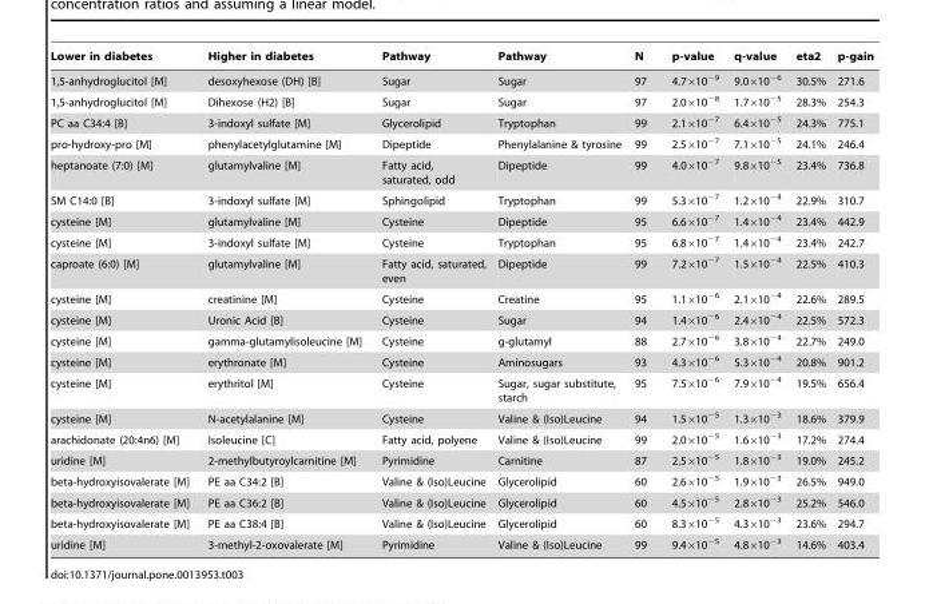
<table><thead><tr><td>Lower in diabetes</td><td>Higher in diabetes</td><td>Pathway</td><td>Pathway</td><td>N</td><td>p-value</td><td>q-value</td><td>eta2</td><td>p-gain</td></tr></thead><tbody><tr><td>1,5-anhydroglucitol [M]</td><td>desoxyhexose (DH) [B]</td><td>Sugar</td><td>Sugar</td><td>97</td><td>4.7×10<sup>−9</sup></td><td>9.0×10<sup>−6</sup></td><td>30.5%</td><td>271.6</td></tr><tr><td>1,5-anhydroglucitol [M]</td><td>Dihexose (H2) [B]</td><td>Sugar</td><td>Sugar</td><td>97</td><td>2.0×10<sup>−8</sup></td><td>1.7×10<sup>−5</sup></td><td>28.3%</td><td>254.3</td></tr><tr><td>PC aa C34:4 [B]</td><td>3-indoxyl sulfate [M]</td><td>Glycerolipid</td><td>Tryptophan</td><td>99</td><td>2.1×10<sup>−7</sup></td><td>6.4×10<sup>−5</sup></td><td>24.3%</td><td>775.1</td></tr><tr><td>pro-hydroxy-pro [M]</td><td>phenylacetylglutamine [M]</td><td>Dipeptide</td><td>Phenylalanine &amp; tyrosine</td><td>99</td><td>2.5×10<sup>−7</sup></td><td>7.1×10<sup>−5</sup></td><td>24.1%</td><td>246.4</td></tr><tr><td>heptanoate (7:0) [M]</td><td>glutamylvaline [M]</td><td>Fatty acid, saturated, odd</td><td>Dipeptide</td><td>99</td><td>4.0×10<sup>−7</sup></td><td>9.8×10<sup>−5</sup></td><td>23.4%</td><td>736.8</td></tr><tr><td>SM C14:0 [B]</td><td>3-indoxyl sulfate [M]</td><td>Sphingolipid</td><td>Tryptophan</td><td>99</td><td>5.3×10<sup>−7</sup></td><td>1.2×10<sup>−4</sup></td><td>22.9%</td><td>310.7</td></tr><tr><td>cysteine [M]</td><td>glutamylvaline [M]</td><td>Cysteine</td><td>Dipeptide</td><td>95</td><td>6.6×10<sup>−7</sup></td><td>1.4×10<sup>−4</sup></td><td>23.4%</td><td>442.9</td></tr><tr><td>cysteine [M]</td><td>3-indoxyl sulfate [M]</td><td>Cysteine</td><td>Tryptophan</td><td>95</td><td>6.8×10<sup>−7</sup></td><td>1.4×10<sup>−4</sup></td><td>23.4%</td><td>242.7</td></tr><tr><td>caproate (6:0) [M]</td><td>glutamylvaline [M]</td><td>Fatty acid, saturated, even</td><td>Dipeptide</td><td>99</td><td>7.2×10<sup>−7</sup></td><td>1.5×10<sup>−4</sup></td><td>22.5%</td><td>410.3</td></tr><tr><td>cysteine [M]</td><td>creatinine [M]</td><td>Cysteine</td><td>Creatine</td><td>95</td><td>1.1×10<sup>−6</sup></td><td>2.1×10<sup>−4</sup></td><td>22.6%</td><td>289.5</td></tr><tr><td>cysteine [M]</td><td>Uronic Acid [B]</td><td>Cysteine</td><td>Sugar</td><td>94</td><td>1.4×10<sup>−6</sup></td><td>2.4×10<sup>−4</sup></td><td>22.5%</td><td>572.3</td></tr><tr><td>cysteine [M]</td><td>gamma-glutamylisoleucine [M]</td><td>Cysteine</td><td>g-glutamyl</td><td>88</td><td>2.7×10<sup>−6</sup></td><td>3.8×10<sup>−4</sup></td><td>22.7%</td><td>249.0</td></tr><tr><td>cysteine [M]</td><td>erythronate [M]</td><td>Cysteine</td><td>Aminosugars</td><td>93</td><td>4.3×10<sup>−6</sup></td><td>5.3×10<sup>−4</sup></td><td>20.8%</td><td>901.2</td></tr><tr><td>cysteine [M]</td><td>erythritol [M]</td><td>Cysteine</td><td>Sugar, sugar substitute, starch</td><td>95</td><td>7.5×10<sup>−6</sup></td><td>7.9×10<sup>−4</sup></td><td>19.5%</td><td>656.4</td></tr><tr><td>cysteine [M]</td><td>N-acetylalanine [M]</td><td>Cysteine</td><td>Valine &amp; (Iso)Leucine</td><td>94</td><td>1.5×10<sup>−5</sup></td><td>1.3×10<sup>−3</sup></td><td>18.6%</td><td>379.9</td></tr><tr><td>arachidonate (20:4n6) [M]</td><td>Isoleucine [C]</td><td>Fatty acid, polyene</td><td>Valine &amp; (Iso)Leucine</td><td>99</td><td>2.0×10<sup>−5</sup></td><td>1.6×10<sup>−3</sup></td><td>17.2%</td><td>274.4</td></tr><tr><td>uridine [M]</td><td>2-methylbutyroylcarnitine [M]</td><td>Pyrimidine</td><td>Carnitine</td><td>87</td><td>2.5×10<sup>−5</sup></td><td>1.8×10<sup>−3</sup></td><td>19.0%</td><td>245.2</td></tr><tr><td>beta-hydroxyisovalerate [M]</td><td>PE aa C34:2 [B]</td><td>Valine &amp; (Iso)Leucine</td><td>Glycerolipid</td><td>60</td><td>2.6×10<sup>−5</sup></td><td>1.9×10<sup>−3</sup></td><td>26.5%</td><td>949.0</td></tr><tr><td>beta-hydroxyisovalerate [M]</td><td>PE aa C36:2 [B]</td><td>Valine &amp; (Iso)Leucine</td><td>Glycerolipid</td><td>60</td><td>4.5×10<sup>−5</sup></td><td>2.8×10<sup>−3</sup></td><td>25.2%</td><td>546.0</td></tr><tr><td>beta-hydroxyisovalerate [M]</td><td>PE aa C38:4 [B]</td><td>Valine &amp; (Iso)Leucine</td><td>Glycerolipid</td><td>60</td><td>8.3×10<sup>−5</sup></td><td>4.3×10<sup>−3</sup></td><td>23.6%</td><td>294.7</td></tr><tr><td>uridine [M]</td><td>3-methyl-2-oxovalerate [M]</td><td>Pyrimidine</td><td>Valine &amp; (Iso)Leucine</td><td>99</td><td>9.4×10<sup>−5</sup></td><td>4.8×10<sup>−3</sup></td><td>14.6%</td><td>403.4</td></tr></tbody></table>